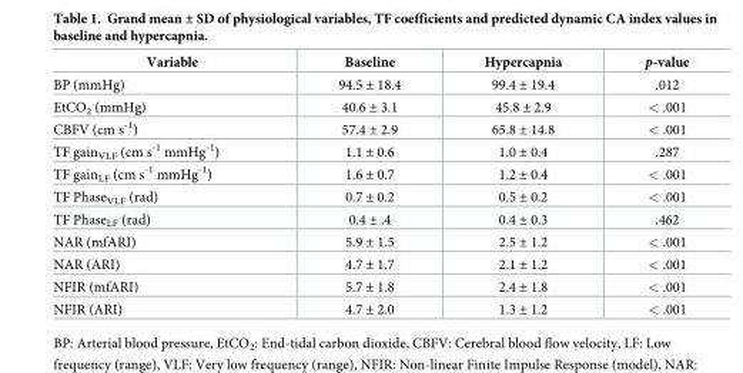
<table><thead><tr><td>Variable</td><td>Baseline</td><td>Hypercapnia</td><td>p-value</td></tr></thead><tbody><tr><td>BP (mmHg)</td><td>94.5 ± 18.4</td><td>99.4 ± 19.4</td><td>.012</td></tr><tr><td>EtCO<sub>2</sub> (mmHg)</td><td>40.6 ± 3.1</td><td>45.8 ± 2.9</td><td>&lt; .001</td></tr><tr><td>CBFV (cm s<sup>-1</sup>)</td><td>57.4 ± 2.9</td><td>65.8 ± 14.8</td><td>&lt; .001</td></tr><tr><td>TF gain<sub>VLF</sub> (cm s<sup>-1</sup> mmHg<sup>-1</sup>)</td><td>1.1 ± 0.6</td><td>1.0 ± 0.4</td><td>.287</td></tr><tr><td>TF gain<sub>LF</sub> (cm s<sup>-1</sup> mmHg<sup>-1</sup>)</td><td>1.6 ± 0.7</td><td>1.2 ± 0.4</td><td>&lt; .001</td></tr><tr><td>TF Phase<sub>VLF</sub> (rad)</td><td>0.7 ± 0.2</td><td>0.5 ± 0.2</td><td>&lt; .001</td></tr><tr><td>TF Phase<sub>LF</sub> (rad)</td><td>0.4 ± .4</td><td>0.4 ± 0.3</td><td>.462</td></tr><tr><td>NAR (mfARI)</td><td>5.9 ± 1.5</td><td>2.5 ± 1.2</td><td>&lt; .001</td></tr><tr><td>NAR (ARI)</td><td>4.7 ± 1.7</td><td>2.1 ± 1.2</td><td>&lt; .001</td></tr><tr><td>NFIR (mfARI)</td><td>5.7 ± 1.8</td><td>2.4 ± 1.8</td><td>&lt; .001</td></tr><tr><td>NFIR (ARI)</td><td>4.7 ± 2.0</td><td>1.3 ± 1.2</td><td>&lt; .001</td></tr></tbody></table>